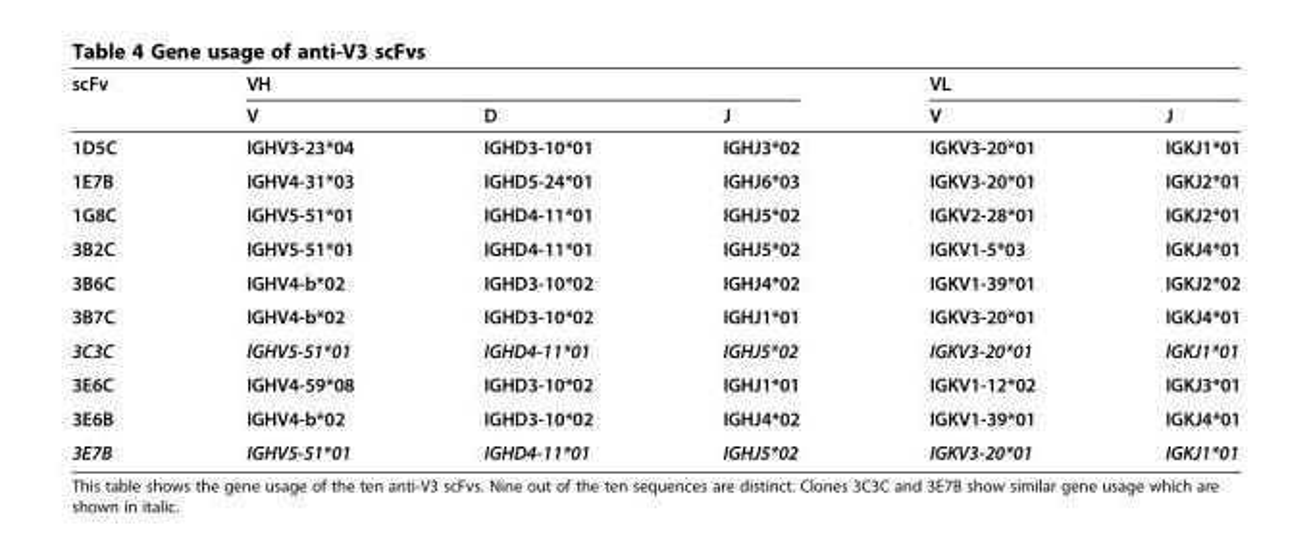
<table><thead><tr><td rowspan="2">scFv</td><td rowspan="2">VH V</td><td rowspan="2">D</td><td rowspan="2">J</td><td rowspan="2">VL V</td><td rowspan="2">J</td></tr><tr></tr></thead><tbody><tr><td>1D5C</td><td>IGHV3-23*04</td><td>IGHD3-10*01</td><td>IGHJ3*02</td><td>IGKV3-20*01</td><td>IGKJ1*01</td></tr><tr><td>1E7B</td><td>IGHV4-31*03</td><td>IGHD5-24*01</td><td>IGHJ6*03</td><td>IGKV3-20*01</td><td>IGKJ2*01</td></tr><tr><td>1G8C</td><td>IGHV5-51*01</td><td>IGHD4-11*01</td><td>IGHJ5*02</td><td>IGKV2-28*01</td><td>IGKJ2*01</td></tr><tr><td>3B2C</td><td>IGHV5-51*01</td><td>IGHD4-11*01</td><td>IGHJ5*02</td><td>IGKV1-5*03</td><td>IGKJ4*01</td></tr><tr><td>3B6C</td><td>IGHV4-b*02</td><td>IGHD3-10*02</td><td>IGHJ4*02</td><td>IGKV1-39*01</td><td>IGKJ2*02</td></tr><tr><td>3B7C</td><td>IGHV4-b*02</td><td>IGHD3-10*02</td><td>IGHJ1*01</td><td>IGKV3-20*01</td><td>IGKJ4*01</td></tr><tr><td>3C3C</td><td>IGHV5-51*01</td><td>IGHD4-11*01</td><td>IGHJ5*02</td><td>IGKV3-20*01</td><td>IGKJ1*01</td></tr><tr><td>3E6C</td><td>IGHV4-59*08</td><td>IGHD3-10*02</td><td>IGHJ1*01</td><td>IGKV1-12*02</td><td>IGKJ3*01</td></tr><tr><td>3E6B</td><td>IGHV4-b*02</td><td>IGHD3-10*02</td><td>IGHJ4*02</td><td>IGKV1-39*01</td><td>IGKJ4*01</td></tr><tr><td>3E7B</td><td>IGHV5-51*01</td><td>IGHD4-11*01</td><td>IGHJ5*02</td><td>IGKV3-20*01</td><td>IGKJ1*01</td></tr></tbody></table>